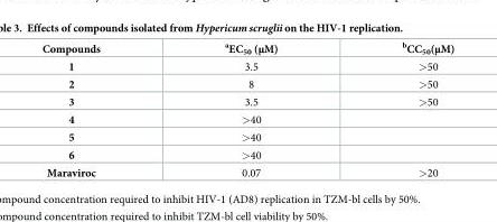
<table><thead><tr><td>Compounds</td><td><sup>a</sup>EC<sub>50</sub> (μM)</td><td><sup>b</sup>CC<sub>50</sub>(μM)</td></tr></thead><tbody><tr><td>1</td><td>3.5</td><td>&gt;50</td></tr><tr><td>2</td><td>8</td><td>&gt;50</td></tr><tr><td>3</td><td>3.5</td><td>&gt;50</td></tr><tr><td>4</td><td>&gt;40</td><td></td></tr><tr><td>5</td><td>&gt;40</td><td></td></tr><tr><td>6</td><td>&gt;40</td><td></td></tr><tr><td>Maraviroc</td><td>0.07</td><td>&gt;20</td></tr></tbody></table>